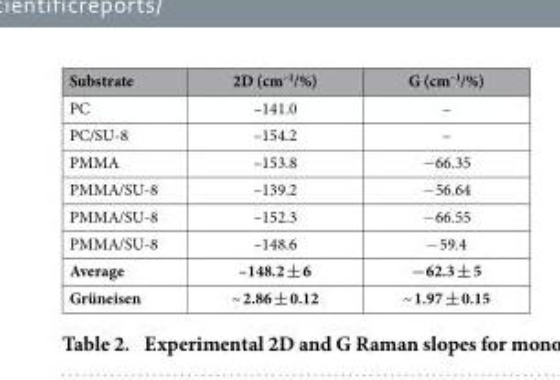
<table><thead><tr><td>Substrate</td><td>2D (cm<sup>–1</sup>/%)</td><td>G (cm<sup>–1</sup>/%)</td></tr></thead><tbody><tr><td>PC</td><td>–141.0</td><td>–</td></tr><tr><td>PC/SU-8</td><td>–154.2</td><td>–</td></tr><tr><td>PMMA</td><td>–153.8</td><td>- 66.35</td></tr><tr><td>PMMA/SU-8</td><td>–139.2</td><td>- 56.64</td></tr><tr><td>PMMA/SU-8</td><td>–152.3</td><td>- 66.55</td></tr><tr><td>PMMA/SU-8</td><td>–148.6</td><td>- 59.4</td></tr><tr><td>Average</td><td>–148.2 ± 6</td><td>−62.3 ± 5</td></tr><tr><td>Grüneisen</td><td>~ 2.86 ± 0.12</td><td>~ 1.97 ± 0.15</td></tr></tbody></table>